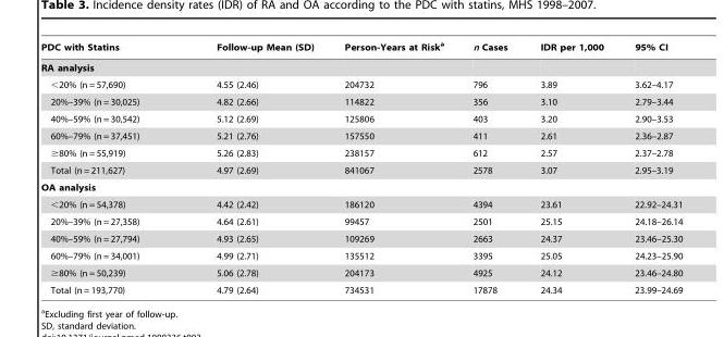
<table><thead><tr><td>PDC with Statins</td><td>Follow-up Mean (SD)</td><td>Person-Years at Risk<sup>a</sup></td><td>n Cases</td><td>IDR per 1,000</td><td>95% CI</td></tr></thead><tbody><tr><td colspan="6">RA analysis</td></tr><tr><td>&lt;20% (n = 57,690)</td><td>4.55 (2.46)</td><td>204732</td><td>796</td><td>3.89</td><td>3.62–4.17</td></tr><tr><td>20%–39% (n = 30,025)</td><td>4.82 (2.66)</td><td>114822</td><td>356</td><td>3.10</td><td>2.79–3.44</td></tr><tr><td>40%–59% (n = 30,542)</td><td>5.12 (2.69)</td><td>125806</td><td>403</td><td>3.20</td><td>2.90–3.53</td></tr><tr><td>60%–79% (n = 37,451)</td><td>5.21 (2.76)</td><td>157550</td><td>411</td><td>2.61</td><td>2.36–2.87</td></tr><tr><td>≥80% (n = 55,919)</td><td>5.26 (2.83)</td><td>238157</td><td>612</td><td>2.57</td><td>2.37–2.78</td></tr><tr><td>Total (n = 211,627)</td><td>4.97 (2.69)</td><td>841067</td><td>2578</td><td>3.07</td><td>2.95–3.19</td></tr><tr><td colspan="6">OA analysis</td></tr><tr><td>&lt;20% (n = 54,378)</td><td>4.42 (2.42)</td><td>186120</td><td>4394</td><td>23.61</td><td>22.92–24.31</td></tr><tr><td>20%–39% (n = 27,358)</td><td>4.64 (2.61)</td><td>99457</td><td>2501</td><td>25.15</td><td>24.18–26.14</td></tr><tr><td>40%–59% (n = 27,794)</td><td>4.93 (2.65)</td><td>109269</td><td>2663</td><td>24.37</td><td>23.46–25.30</td></tr><tr><td>60%–79% (n = 34,001)</td><td>4.99 (2.71)</td><td>135512</td><td>3395</td><td>25.05</td><td>24.23–25.90</td></tr><tr><td>≥80% (n = 50,239)</td><td>5.06 (2.78)</td><td>204173</td><td>4925</td><td>24.12</td><td>23.46–24.80</td></tr><tr><td>Total (n = 193,770)</td><td>4.79 (2.64)</td><td>734531</td><td>17878</td><td>24.34</td><td>23.99–24.69</td></tr></tbody></table>